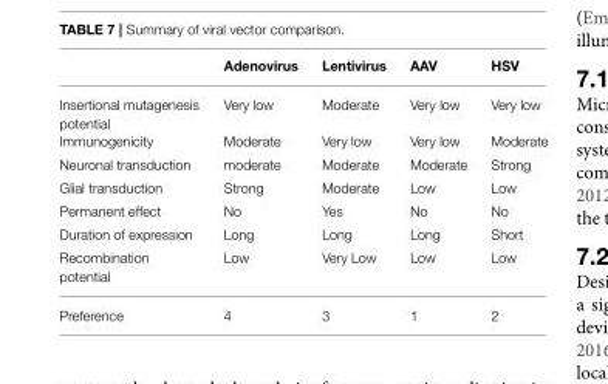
<table><thead><tr><td></td><td>Adenovirus</td><td>Lentivirus</td><td>AAV</td><td>HSV</td></tr></thead><tbody><tr><td>Insertional mutagenesis potential</td><td>Very low</td><td>Moderate</td><td>Very low</td><td>Very low</td></tr><tr><td>Immunogenicity</td><td>Moderate</td><td>Very low</td><td>Very low</td><td>Moderate</td></tr><tr><td>Neuronal transduction</td><td>moderate</td><td>Moderate</td><td>Moderate</td><td>Strong</td></tr><tr><td>Glial transduction</td><td>Strong</td><td>Moderate</td><td>Low</td><td>Low</td></tr><tr><td>Permanent effect</td><td>No</td><td>Yes</td><td>No</td><td>No</td></tr><tr><td>Duration of expression</td><td>Long</td><td>Long</td><td>Long</td><td>Short</td></tr><tr><td>Recombination potential</td><td>Low</td><td>Very Low</td><td>Low</td><td>Low</td></tr><tr><td>Preference</td><td>4</td><td>3</td><td>1</td><td>2</td></tr></tbody></table>